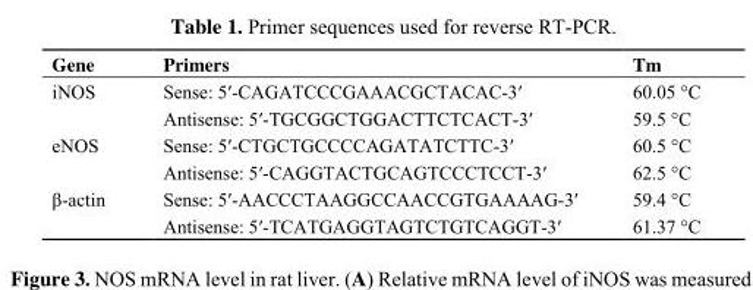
<table><thead><tr><td>Gene</td><td>Primers</td><td>Tm</td></tr></thead><tbody><tr><td rowspan="2">iNOS</td><td>Sense: 5′-CAGATCCCGAAACGCTACAC-3′</td><td>60.05 °C</td></tr><tr><td>Antisense: 5′-TGCGGCTGGACTTCTCACT-3′</td><td>59.5 °C</td></tr><tr><td rowspan="2">eNOS</td><td>Sense: 5′-CTGCTGCCCCAGATATCTTC-3′</td><td>60.5 °C</td></tr><tr><td>Antisense: 5′-CAGGTACTGCAGTCCCTCCT-3′</td><td>62.5 °C</td></tr><tr><td rowspan="2">β-actin</td><td>Sense: 5′-AACCCTAAGGCCAACCGTGAAAAG-3′</td><td>59.4 °C</td></tr><tr><td>Antisense: 5′-TCATGAGGTAGTCTGTCAGGT-3′</td><td>61.37 °C</td></tr></tbody></table>